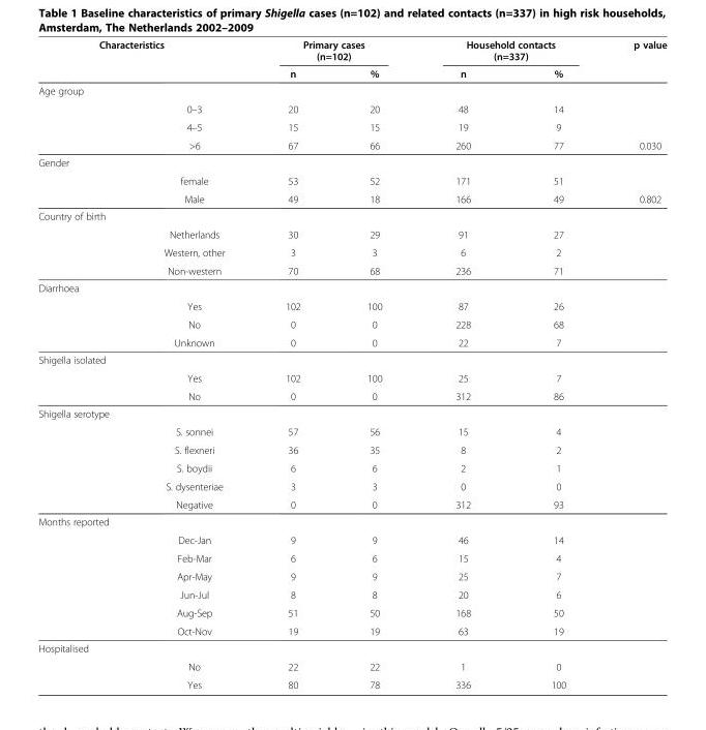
<table><thead><tr><td colspan="2">Characteristics</td><td colspan="2">Primary cases (n=102)</td><td colspan="2">Household contacts (n=337)</td><td rowspan="2">p value</td></tr><tr><td></td><td></td><td>n</td><td>%</td><td>n</td><td>%</td></tr></thead><tbody><tr><td colspan="7">Age group</td></tr><tr><td></td><td>0–3</td><td>20</td><td>20</td><td>48</td><td>14</td><td></td></tr><tr><td></td><td>4–5</td><td>15</td><td>15</td><td>19</td><td>9</td><td></td></tr><tr><td></td><td>&gt;6</td><td>67</td><td>66</td><td>260</td><td>77</td><td>0.030</td></tr><tr><td colspan="7">Gender</td></tr><tr><td></td><td>female</td><td>53</td><td>52</td><td>171</td><td>51</td><td></td></tr><tr><td></td><td>Male</td><td>49</td><td>18</td><td>166</td><td>49</td><td>0.802</td></tr><tr><td colspan="7">Country of birth</td></tr><tr><td></td><td>Netherlands</td><td>30</td><td>29</td><td>91</td><td>27</td><td></td></tr><tr><td></td><td>Western, other</td><td>3</td><td>3</td><td>6</td><td>2</td><td></td></tr><tr><td></td><td>Non-western</td><td>70</td><td>68</td><td>236</td><td>71</td><td></td></tr><tr><td colspan="7">Diarrhoea</td></tr><tr><td></td><td>Yes</td><td>102</td><td>100</td><td>87</td><td>26</td><td></td></tr><tr><td></td><td>No</td><td>0</td><td>0</td><td>228</td><td>68</td><td></td></tr><tr><td></td><td>Unknown</td><td>0</td><td>0</td><td>22</td><td>7</td><td></td></tr><tr><td colspan="7">Shigella isolated</td></tr><tr><td></td><td>Yes</td><td>102</td><td>100</td><td>25</td><td>7</td><td></td></tr><tr><td></td><td>No</td><td>0</td><td>0</td><td>312</td><td>86</td><td></td></tr><tr><td colspan="7">Shigella serotype</td></tr><tr><td></td><td>S. sonnei</td><td>57</td><td>56</td><td>15</td><td>4</td><td></td></tr><tr><td></td><td>S. flexneri</td><td>36</td><td>35</td><td>8</td><td>2</td><td></td></tr><tr><td></td><td>S. boydii</td><td>6</td><td>6</td><td>2</td><td>1</td><td></td></tr><tr><td></td><td>S. dysenteriae</td><td>3</td><td>3</td><td>0</td><td>0</td><td></td></tr><tr><td></td><td>Negative</td><td>0</td><td>0</td><td>312</td><td>93</td><td></td></tr><tr><td colspan="7">Months reported</td></tr><tr><td></td><td>Dec-Jan</td><td>9</td><td>9</td><td>46</td><td>14</td><td></td></tr><tr><td></td><td>Feb-Mar</td><td>6</td><td>6</td><td>15</td><td>4</td><td></td></tr><tr><td></td><td>Apr-May</td><td>9</td><td>9</td><td>25</td><td>7</td><td></td></tr><tr><td></td><td>Jun-Jul</td><td>8</td><td>8</td><td>20</td><td>6</td><td></td></tr><tr><td></td><td>Aug-Sep</td><td>51</td><td>50</td><td>168</td><td>50</td><td></td></tr><tr><td></td><td>Oct-Nov</td><td>19</td><td>19</td><td>63</td><td>19</td><td></td></tr><tr><td colspan="7">Hospitalised</td></tr><tr><td></td><td>No</td><td>22</td><td>22</td><td>1</td><td>0</td><td></td></tr><tr><td></td><td>Yes</td><td>80</td><td>78</td><td>336</td><td>100</td><td></td></tr></tbody></table>